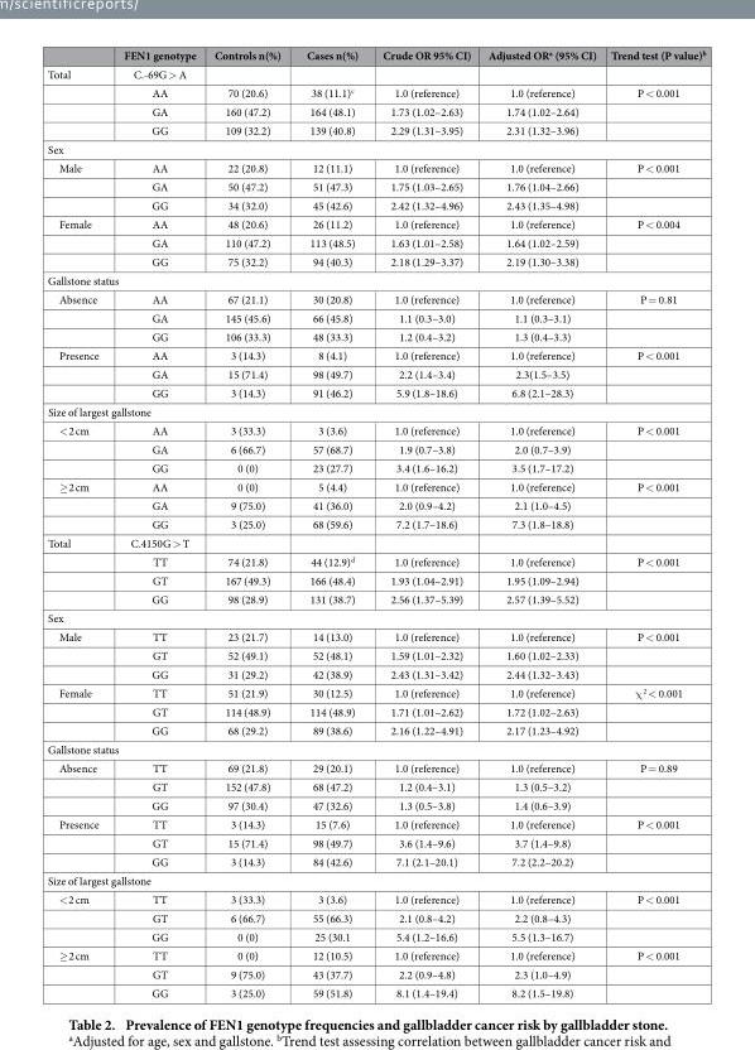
<table><thead><tr><td></td><td>FEN1 genotype</td><td>Controls n(%)</td><td>Cases n(%)</td><td>Crude OR 95% CI)</td><td>Adjusted OR<sup>a</sup> (95% CI)</td><td>Trend test (P value)<sup>b</sup></td></tr></thead><tbody><tr><td rowspan="4">Total</td><td>C.-69G &gt; A</td><td></td><td></td><td></td><td></td><td></td></tr><tr><td>AA</td><td>70 (20.6)</td><td>38 (11.1)<sup>c</sup></td><td>1.0 (reference)</td><td>1.0 (reference)</td><td>P &lt; 0.001</td></tr><tr><td>GA</td><td>160 (47.2)</td><td>164 (48.1)</td><td>1.73 (1.02–2.63)</td><td>1.74 (1.02–2.64)</td><td></td></tr><tr><td>GG</td><td>109 (32.2)</td><td>139 (40.8)</td><td>2.29 (1.31–3.95)</td><td>2.31 (1.32–3.96)</td><td></td></tr><tr><td colspan="7">Sex</td></tr><tr><td rowspan="3">Male</td><td>AA</td><td>22 (20.8)</td><td>12 (11.1)</td><td>1.0 (reference)</td><td>1.0 (reference)</td><td>P &lt; 0.001</td></tr><tr><td>GA</td><td>50 (47.2)</td><td>51 (47.3)</td><td>1.75 (1.03–2.65)</td><td>1.76 (1.04–2.66)</td><td></td></tr><tr><td>GG</td><td>34 (32.0)</td><td>45 (42.6)</td><td>2.42 (1.32–4.96)</td><td>2.43 (1.35–4.98)</td><td></td></tr><tr><td rowspan="3">Female</td><td>AA</td><td>48 (20.6)</td><td>26 (11.2)</td><td>1.0 (reference)</td><td>1.0 (reference)</td><td>P &lt; 0.004</td></tr><tr><td>GA</td><td>110 (47.2)</td><td>113 (48.5)</td><td>1.63 (1.01–2.58)</td><td>1.64 (1.02–2.59)</td><td></td></tr><tr><td>GG</td><td>75 (32.2)</td><td>94 (40.3)</td><td>2.18 (1.29–3.37)</td><td>2.19 (1.30–3.38)</td><td></td></tr><tr><td colspan="7">Gallstone status</td></tr><tr><td rowspan="3">Absence</td><td>AA</td><td>67 (21.1)</td><td>30 (20.8)</td><td>1.0 (reference)</td><td>1.0 (reference)</td><td>P = 0.81</td></tr><tr><td>GA</td><td>145 (45.6)</td><td>66 (45.8)</td><td>1.1 (0.3–3.0)</td><td>1.1 (0.3–3.1)</td><td></td></tr><tr><td>GG</td><td>106 (33.3)</td><td>48 (33.3)</td><td>1.2 (0.4–3.2)</td><td>1.3 (0.4–3.3)</td><td></td></tr><tr><td rowspan="3">Presence</td><td>AA</td><td>3 (14.3)</td><td>8 (4.1)</td><td>1.0 (reference)</td><td>1.0 (reference)</td><td>P &lt; 0.001</td></tr><tr><td>GA</td><td>15 (71.4)</td><td>98 (49.7)</td><td>2.2 (1.4–3.4)</td><td>2.3(1.5–3.5)</td><td></td></tr><tr><td>GG</td><td>3 (14.3)</td><td>91 (46.2)</td><td>5.9 (1.8–18.6)</td><td>6.8 (2.1–28.3)</td><td></td></tr><tr><td colspan="7">Size of largest gallstone</td></tr><tr><td rowspan="3">&lt; 2 cm</td><td>AA</td><td>3 (33.3)</td><td>3 (3.6)</td><td>1.0 (reference)</td><td>1.0 (reference)</td><td>P &lt; 0.001</td></tr><tr><td>GA</td><td>6 (66.7)</td><td>57 (68.7)</td><td>1.9 (0.7–3.8)</td><td>2.0 (0.7–3.9)</td><td></td></tr><tr><td>GG</td><td>0 (0)</td><td>23 (27.7)</td><td>3.4 (1.6–16.2)</td><td>3.5 (1.7–17.2)</td><td></td></tr><tr><td rowspan="3">≥ 2 cm</td><td>AA</td><td>0 (0)</td><td>5 (4.4)</td><td>1.0 (reference)</td><td>1.0 (reference)</td><td>P &lt; 0.001</td></tr><tr><td>GA</td><td>9 (75.0)</td><td>41 (36.0)</td><td>2.0 (0.9–4.2)</td><td>2.1 (1.0–4.5)</td><td></td></tr><tr><td>GG</td><td>3 (25.0)</td><td>68 (59.6)</td><td>7.2 (1.7–18.6)</td><td>7.3 (1.8–18.8)</td><td></td></tr><tr><td rowspan="4">Total</td><td>C.4150G &gt; T</td><td></td><td></td><td></td><td></td><td></td></tr><tr><td>TT</td><td>74 (21.8)</td><td>44 (12.9)<sup>d</sup></td><td>1.0 (reference)</td><td>1.0 (reference)</td><td>P &lt; 0.001</td></tr><tr><td>GT</td><td>167 (49.3)</td><td>166 (48.4)</td><td>1.93 (1.04–2.91)</td><td>1.95 (1.09–2.94)</td><td></td></tr><tr><td>GG</td><td>98 (28.9)</td><td>131 (38.7)</td><td>2.56 (1.37–5.39)</td><td>2.57 (1.39–5.52)</td><td></td></tr><tr><td colspan="7">Sex</td></tr><tr><td rowspan="3">Male</td><td>TT</td><td>23 (21.7)</td><td>14 (13.0)</td><td>1.0 (reference)</td><td>1.0 (reference)</td><td>P &lt; 0.001</td></tr><tr><td>GT</td><td>52 (49.1)</td><td>52 (48.1)</td><td>1.59 (1.01–2.32)</td><td>1.60 (1.02–2.33)</td><td></td></tr><tr><td>GG</td><td>31 (29.2)</td><td>42 (38.9)</td><td>2.43 (1.31–3.42)</td><td>2.44 (1.32–3.43)</td><td></td></tr><tr><td rowspan="3">Female</td><td>TT</td><td>51 (21.9)</td><td>30 (12.5)</td><td>1.0 (reference)</td><td>1.0 (reference)</td><td>χ <sup>2</sup> &lt; 0.001</td></tr><tr><td>GT</td><td>114 (48.9)</td><td>114 (48.9)</td><td>1.71 (1.01–2.62)</td><td>1.72 (1.02–2.63)</td><td></td></tr><tr><td>GG</td><td>68 (29.2)</td><td>89 (38.6)</td><td>2.16 (1.22–4.91)</td><td>2.17 (1.23–4.92)</td><td></td></tr><tr><td colspan="7">Gallstone status</td></tr><tr><td rowspan="3">Absence</td><td>TT</td><td>69 (21.8)</td><td>29 (20.1)</td><td>1.0 (reference)</td><td>1.0 (reference)</td><td>P = 0.89</td></tr><tr><td>GT</td><td>152 (47.8)</td><td>68 (47.2)</td><td>1.2 (0.4–3.1)</td><td>1.3 (0.5–3.2)</td><td></td></tr><tr><td>GG</td><td>97 (30.4)</td><td>47 (32.6)</td><td>1.3 (0.5–3.8)</td><td>1.4 (0.6–3.9)</td><td></td></tr><tr><td rowspan="3">Presence</td><td>TT</td><td>3 (14.3)</td><td>15 (7.6)</td><td>1.0 (reference)</td><td>1.0 (reference)</td><td>P &lt; 0.001</td></tr><tr><td>GT</td><td>15 (71.4)</td><td>98 (49.7)</td><td>3.6 (1.4–9.6)</td><td>3.7 (1.4–9.8)</td><td></td></tr><tr><td>GG</td><td>3 (14.3)</td><td>84 (42.6)</td><td>7.1 (2.1–20.1)</td><td>7.2 (2.2–20.2)</td><td></td></tr><tr><td colspan="7">Size of largest gallstone</td></tr><tr><td rowspan="3">&lt; 2 cm</td><td>TT</td><td>3 (33.3)</td><td>3 (3.6)</td><td>1.0 (reference)</td><td>1.0 (reference)</td><td>P &lt; 0.001</td></tr><tr><td>GT</td><td>6 (66.7)</td><td>55 (66.3)</td><td>2.1 (0.8–4.2)</td><td>2.2 (0.8–4.3)</td><td></td></tr><tr><td>GG</td><td>0 (0)</td><td>25 (30.1</td><td>5.4 (1.2–16.6)</td><td>5.5 (1.3–16.7)</td><td></td></tr><tr><td rowspan="3">≥ 2 cm</td><td>TT</td><td>0 (0)</td><td>12 (10.5)</td><td>1.0 (reference)</td><td>1.0 (reference)</td><td>P &lt; 0.001</td></tr><tr><td>GT</td><td>9 (75.0)</td><td>43 (37.7)</td><td>2.2 (0.9–4.8)</td><td>2.3 (1.0–4.9)</td><td></td></tr><tr><td>GG</td><td>3 (25.0)</td><td>59 (51.8)</td><td>8.1 (1.4–19.4)</td><td>8.2 (1.5–19.8)</td><td></td></tr></tbody></table>